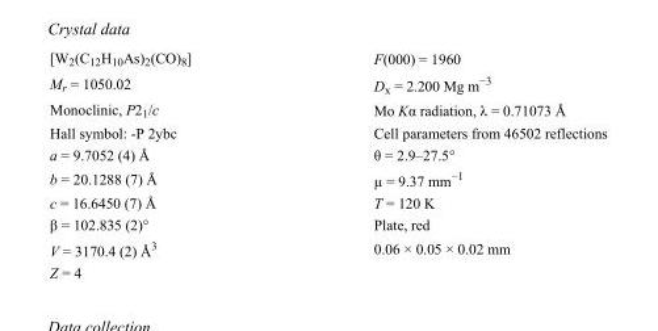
<table><tbody><tr><td>[W<sub>2</sub>(C<sub>12</sub>H<sub>10</sub>As)<sub>2</sub>(CO)<sub>8</sub>]</td><td>F(000) = 1960</td></tr><tr><td>M<sub>r</sub> = 1050.02</td><td>D<sub>x</sub> = 2.200 Mg m<sup>−3</sup></td></tr><tr><td>Monoclinic, P2<sub>1</sub>/c</td><td>Mo Kα radiation, λ = 0.71073 Å</td></tr><tr><td>Hall symbol: -P 2ybc</td><td>Cell parameters from 46502 reflections</td></tr><tr><td>a = 9.7052 (4) Å</td><td>θ = 2.9–27.5°</td></tr><tr><td>b = 20.1288 (7) Å</td><td>µ = 9.37 mm<sup>−1</sup></td></tr><tr><td>c = 16.6450 (7) Å</td><td>T = 120 K</td></tr><tr><td>β = 102.835 (2)°</td><td>Plate, red</td></tr><tr><td>V = 3170.4 (2) Å<sup>3</sup></td><td>0.06 × 0.05 × 0.02 mm</td></tr><tr><td>Z = 4</td><td></td></tr></tbody></table>